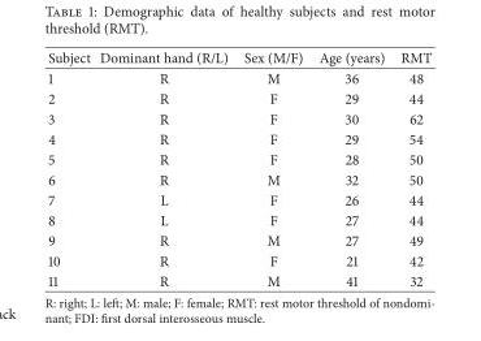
<table><thead><tr><td>Subject</td><td>Dominant hand (R/L)</td><td>Sex (M/F)</td><td>Age (years)</td><td>RMT</td></tr></thead><tbody><tr><td>1</td><td>R</td><td>M</td><td>36</td><td>48</td></tr><tr><td>2</td><td>R</td><td>F</td><td>29</td><td>44</td></tr><tr><td>3</td><td>R</td><td>F</td><td>30</td><td>62</td></tr><tr><td>4</td><td>R</td><td>F</td><td>29</td><td>54</td></tr><tr><td>5</td><td>R</td><td>F</td><td>28</td><td>50</td></tr><tr><td>6</td><td>R</td><td>M</td><td>32</td><td>50</td></tr><tr><td>7</td><td>L</td><td>F</td><td>26</td><td>44</td></tr><tr><td>8</td><td>L</td><td>F</td><td>27</td><td>44</td></tr><tr><td>9</td><td>R</td><td>M</td><td>27</td><td>49</td></tr><tr><td>10</td><td>R</td><td>F</td><td>21</td><td>42</td></tr><tr><td>11</td><td>R</td><td>M</td><td>41</td><td>32</td></tr></tbody></table>